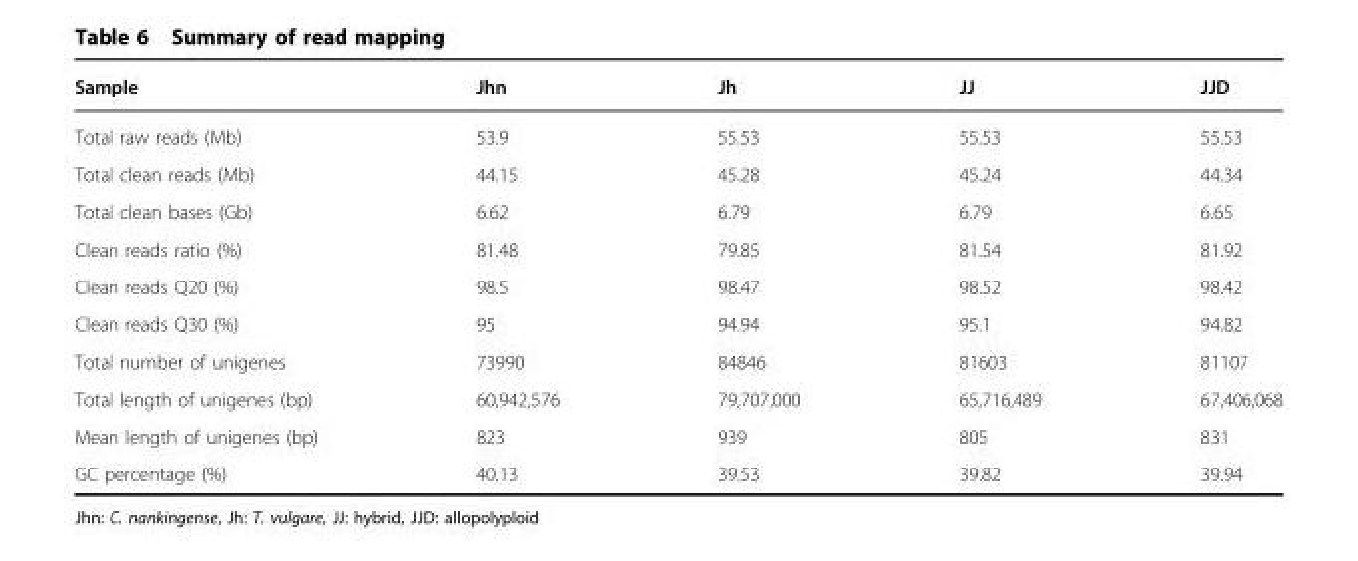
<table><thead><tr><td>Sample</td><td>Jhn</td><td>Jh</td><td>JJ</td><td>JJD</td></tr></thead><tbody><tr><td>Total raw reads (Mb)</td><td>53.9</td><td>55.53</td><td>55.53</td><td>55.53</td></tr><tr><td>Total clean reads (Mb)</td><td>44.15</td><td>45.28</td><td>45.24</td><td>44.34</td></tr><tr><td>Total clean bases (Gb)</td><td>6.62</td><td>6.79</td><td>6.79</td><td>6.65</td></tr><tr><td>Clean reads ratio (%)</td><td>81.48</td><td>79.85</td><td>81.54</td><td>81.92</td></tr><tr><td>Clean reads Q20 (%)</td><td>98.5</td><td>98.47</td><td>98.52</td><td>98.42</td></tr><tr><td>Clean reads Q30 (%)</td><td>95</td><td>94.94</td><td>95.1</td><td>94.82</td></tr><tr><td>Total number of unigenes</td><td>73990</td><td>84846</td><td>81603</td><td>81107</td></tr><tr><td>Total length of unigenes (bp)</td><td>60,942,576</td><td>79,707,000</td><td>65,716,489</td><td>67,406,068</td></tr><tr><td>Mean length of unigenes (bp)</td><td>823</td><td>939</td><td>805</td><td>831</td></tr><tr><td>GC percentage (%)</td><td>40.13</td><td>39.53</td><td>39.82</td><td>39.94</td></tr></tbody></table>